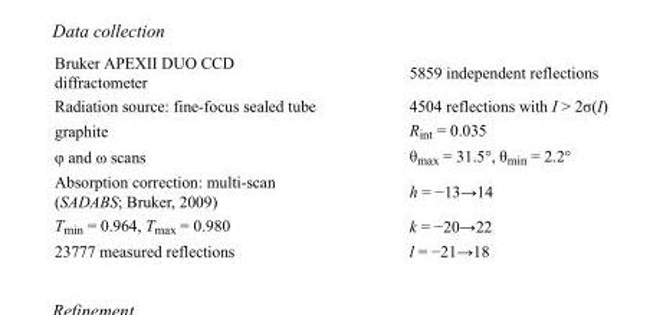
<table><tbody><tr><td>Bruker APEXII DUO CCD diffractometer</td><td>5859 independent reflections</td></tr><tr><td>Radiation source: fine-focus sealed tube</td><td>4504 reflections with I &gt; 2σ(I)</td></tr><tr><td>graphite</td><td>R<sub>int</sub> = 0.035</td></tr><tr><td>φ and ω scans</td><td>θ<sub>max</sub> = 31.5°, θ<sub>min</sub> = 2.2°</td></tr><tr><td>Absorption correction: multi-scan (SADABS; Bruker, 2009)</td><td>h = −13→14</td></tr><tr><td>T<sub>min</sub> = 0.964, T<sub>max</sub> = 0.980</td><td>k = −20→22</td></tr><tr><td>23777 measured reflections</td><td>l = −21→18</td></tr></tbody></table>